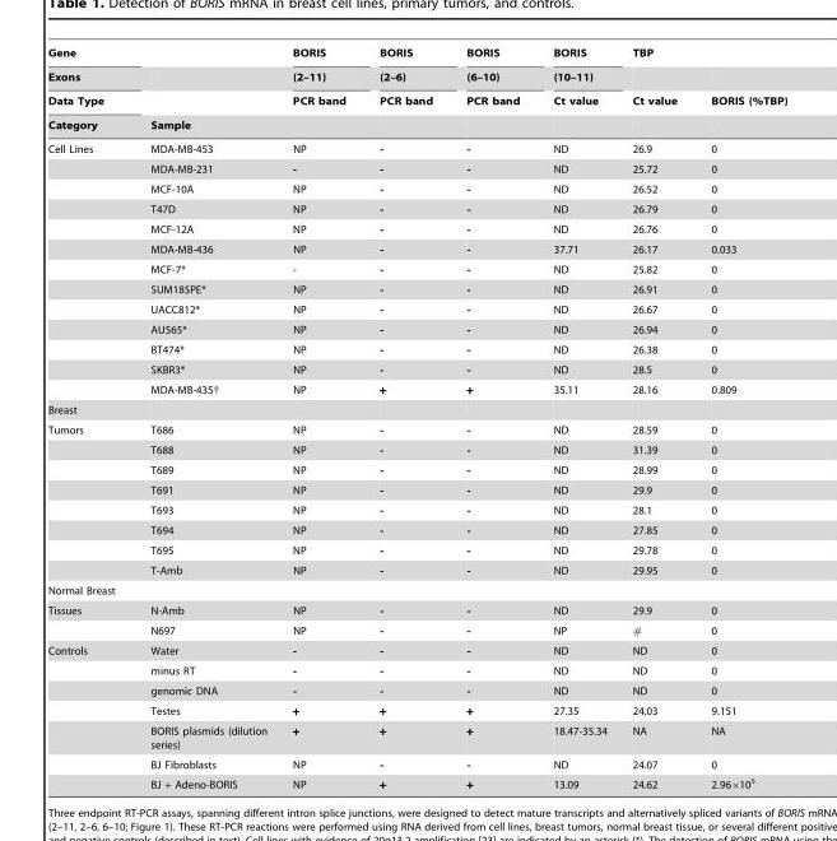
<table><thead><tr><td rowspan="4">Gene Exons Data Type Category</td><td rowspan="4">Sample</td><td rowspan="4">BORIS (2–11) PCR band</td><td rowspan="4">BORIS (2–6) PCR band</td><td rowspan="4">BORIS (6–10) PCR band</td><td rowspan="4">BORIS (10–11) Ct value</td><td rowspan="4">TBP Ct value</td><td rowspan="4">BORIS (%TBP)</td></tr><tr></tr><tr></tr><tr></tr></thead><tbody><tr><td rowspan="13">Cell Lines</td><td>MDA-MB-453</td><td>NP</td><td>-</td><td>-</td><td>ND</td><td>26.9</td><td>0</td></tr><tr><td>MDA-MB-231</td><td>-</td><td>-</td><td>-</td><td>ND</td><td>25.72</td><td>0</td></tr><tr><td>MCF-10A</td><td>NP</td><td>-</td><td>-</td><td>ND</td><td>26.52</td><td>0</td></tr><tr><td>T47D</td><td>NP</td><td>-</td><td>-</td><td>ND</td><td>26.79</td><td>0</td></tr><tr><td>MCF-12A</td><td>NP</td><td>-</td><td>-</td><td>ND</td><td>26.76</td><td>0</td></tr><tr><td>MDA-MB-436</td><td>NP</td><td>-</td><td>-</td><td>37.71</td><td>26.17</td><td>0.033</td></tr><tr><td>MCF-7*</td><td>-</td><td>-</td><td>-</td><td>ND</td><td>25.82</td><td>0</td></tr><tr><td>SUM185PE*</td><td>NP</td><td>-</td><td>-</td><td>ND</td><td>26.91</td><td>0</td></tr><tr><td>UACC812*</td><td>NP</td><td>-</td><td>-</td><td>ND</td><td>26.67</td><td>0</td></tr><tr><td>AU565*</td><td>NP</td><td>-</td><td>-</td><td>ND</td><td>26.94</td><td>0</td></tr><tr><td>BT474*</td><td>NP</td><td>-</td><td>-</td><td>ND</td><td>26.38</td><td>0</td></tr><tr><td>SKBR3*</td><td>NP</td><td>-</td><td>-</td><td>ND</td><td>28.5</td><td>0</td></tr><tr><td>MDA-MB-435†</td><td>NP</td><td>+</td><td>+</td><td>35.11</td><td>28.16</td><td>0.809</td></tr><tr><td colspan="8">Breast</td></tr><tr><td rowspan="8">Tumors</td><td>T686</td><td>NP</td><td>-</td><td>-</td><td>ND</td><td>28.59</td><td>0</td></tr><tr><td>T688</td><td>NP</td><td>-</td><td>-</td><td>ND</td><td>31.39</td><td>0</td></tr><tr><td>T689</td><td>NP</td><td>-</td><td>-</td><td>ND</td><td>28.99</td><td>0</td></tr><tr><td>T691</td><td>NP</td><td>-</td><td>-</td><td>ND</td><td>29.9</td><td>0</td></tr><tr><td>T693</td><td>NP</td><td>-</td><td>-</td><td>ND</td><td>28.1</td><td>0</td></tr><tr><td>T694</td><td>NP</td><td>-</td><td>-</td><td>ND</td><td>27.85</td><td>0</td></tr><tr><td>T695</td><td>NP</td><td>-</td><td>-</td><td>ND</td><td>29.78</td><td>0</td></tr><tr><td>T-Amb</td><td>NP</td><td>-</td><td>-</td><td>ND</td><td>29.95</td><td>0</td></tr><tr><td colspan="8">Normal Breast</td></tr><tr><td rowspan="2">Tissues</td><td>N-Amb</td><td>NP</td><td>-</td><td>-</td><td>ND</td><td>29.9</td><td>0</td></tr><tr><td>N697</td><td>NP</td><td>-</td><td>-</td><td>NP</td><td>#</td><td>0</td></tr><tr><td rowspan="7">Controls</td><td>Water</td><td>-</td><td>-</td><td>-</td><td>ND</td><td>ND</td><td>0</td></tr><tr><td>minus RT</td><td>-</td><td>-</td><td>-</td><td>ND</td><td>ND</td><td>0</td></tr><tr><td>genomic DNA</td><td>-</td><td>-</td><td>-</td><td>ND</td><td>ND</td><td>0</td></tr><tr><td>Testes</td><td>+</td><td>+</td><td>+</td><td>27.35</td><td>24.03</td><td>9.151</td></tr><tr><td>BORIS plasmids (dilution series)</td><td>+</td><td>+</td><td>+</td><td>18.47-35.34</td><td>NA</td><td>NA</td></tr><tr><td>BJ Fibroblasts</td><td>NP</td><td>-</td><td>-</td><td>ND</td><td>24.07</td><td>0</td></tr><tr><td>BJ + Adeno-BORIS</td><td>NP</td><td>+</td><td>+</td><td>13.09</td><td>24.62</td><td>2.96×10<sup>5</sup></td></tr></tbody></table>